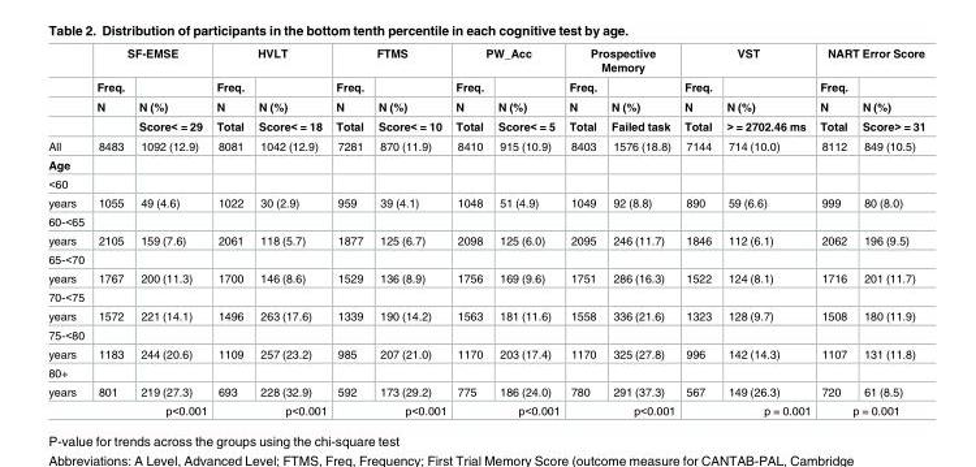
<table><thead><tr><td rowspan="4"></td><td colspan="2">SF-EMSE</td><td colspan="2">HVLT</td><td colspan="2">FTMS</td><td colspan="2">PW_Acc</td><td colspan="2">Prospective Memory</td><td colspan="2">VST</td><td colspan="2">NART Error Score</td></tr><tr><td rowspan="3">Freq. N</td><td rowspan="3">N (%) Score&lt; = 29</td><td rowspan="3">Freq. N Total</td><td rowspan="3">N (%) Score&lt; = 18</td><td rowspan="3">Freq. N Total</td><td rowspan="3">N (%) Score&lt; = 10</td><td rowspan="3">Freq. N Total</td><td rowspan="3">N (%) Score&lt; = 5</td><td rowspan="3">Freq. N Total</td><td rowspan="3">N (%) Failed task</td><td rowspan="3">Freq. N Total</td><td rowspan="3">N (%) &gt; = 2702.46 ms</td><td rowspan="3">Freq. N Total</td><td rowspan="3">N (%) Score&gt; = 31</td></tr><tr></tr><tr></tr></thead><tbody><tr><td>All</td><td>8483</td><td>1092 (12.9)</td><td>8081</td><td>1042 (12.9)</td><td>7281</td><td>870 (11.9)</td><td>8410</td><td>915 (10.9)</td><td>8403</td><td>1576 (18.8)</td><td>7144</td><td>714 (10.0)</td><td>8112</td><td>849 (10.5)</td></tr><tr><td colspan="15">Age</td></tr><tr><td colspan="15">&lt;60</td></tr><tr><td>years</td><td>1055</td><td>49 (4.6)</td><td>1022</td><td>30 (2.9)</td><td>959</td><td>39 (4.1)</td><td>1048</td><td>51 (4.9)</td><td>1049</td><td>92 (8.8)</td><td>890</td><td>59 (6.6)</td><td>999</td><td>80 (8.0)</td></tr><tr><td colspan="15">60-&lt;65</td></tr><tr><td>years</td><td>2105</td><td>159 (7.6)</td><td>2061</td><td>118 (5.7)</td><td>1877</td><td>125 (6.7)</td><td>2098</td><td>125 (6.0)</td><td>2095</td><td>246 (11.7)</td><td>1846</td><td>112 (6.1)</td><td>2062</td><td>196 (9.5)</td></tr><tr><td colspan="15">65-&lt;70</td></tr><tr><td>years</td><td>1767</td><td>200 (11.3)</td><td>1700</td><td>146 (8.6)</td><td>1529</td><td>136 (8.9)</td><td>1756</td><td>169 (9.6)</td><td>1751</td><td>286 (16.3)</td><td>1522</td><td>124 (8.1)</td><td>1716</td><td>201 (11.7)</td></tr><tr><td colspan="15">70-&lt;75</td></tr><tr><td>years</td><td>1572</td><td>221 (14.1)</td><td>1496</td><td>263 (17.6)</td><td>1339</td><td>190 (14.2)</td><td>1563</td><td>181 (11.6)</td><td>1558</td><td>336 (21.6)</td><td>1323</td><td>128 (9.7)</td><td>1508</td><td>180 (11.9)</td></tr><tr><td colspan="15">75-&lt;80</td></tr><tr><td>years</td><td>1183</td><td>244 (20.6)</td><td>1109</td><td>257 (23.2)</td><td>985</td><td>207 (21.0)</td><td>1170</td><td>203 (17.4)</td><td>1170</td><td>325 (27.8)</td><td>996</td><td>142 (14.3)</td><td>1107</td><td>131 (11.8)</td></tr><tr><td colspan="15">80+</td></tr><tr><td>years</td><td>801</td><td>219 (27.3)</td><td>693</td><td>228 (32.9)</td><td>592</td><td>173 (29.2)</td><td>775</td><td>186 (24.0)</td><td>780</td><td>291 (37.3)</td><td>567</td><td>149 (26.3)</td><td>720</td><td>61 (8.5)</td></tr><tr><td colspan="3">p&lt;0.001</td><td colspan="2">p&lt;0.001</td><td colspan="2">p&lt;0.001</td><td colspan="2">p&lt;0.001</td><td colspan="2">p&lt;0.001</td><td colspan="2">p = 0.001</td><td colspan="2">p = 0.001</td></tr></tbody></table>